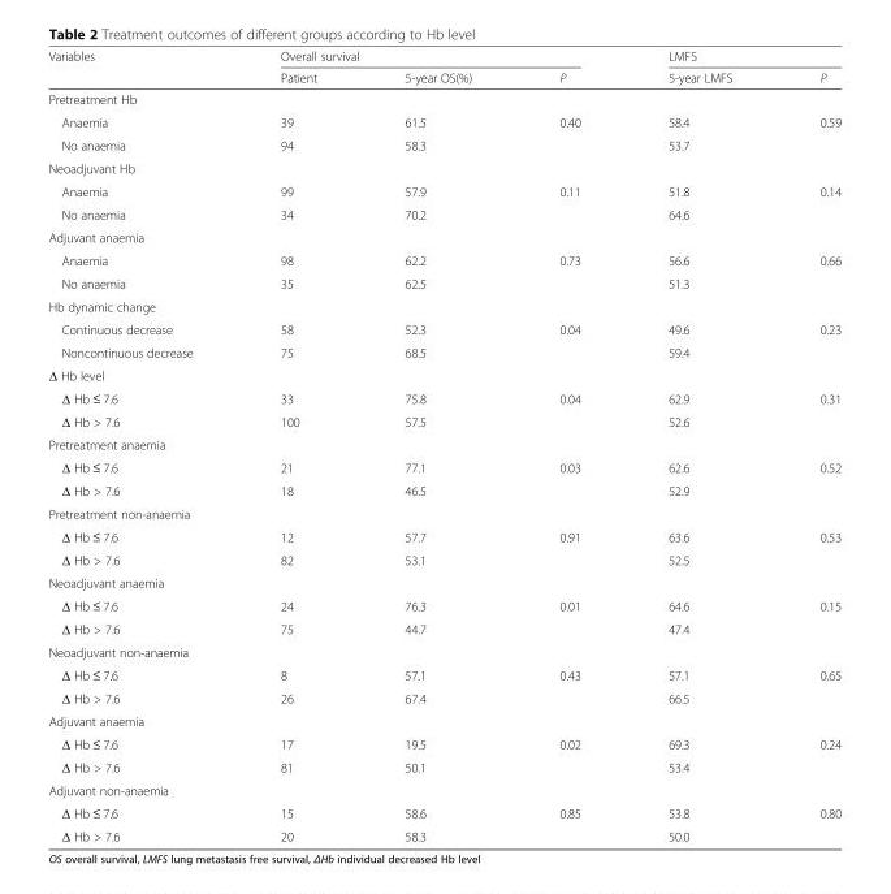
<table><thead><tr><td rowspan="2">Variables</td><td colspan="3">Overall survival</td><td colspan="2">LMFS</td></tr><tr><td>Patient</td><td>5-year OS(%)</td><td>P</td><td>5-year LMFS</td><td>P</td></tr></thead><tbody><tr><td colspan="6">Pretreatment Hb</td></tr><tr><td>Anaemia</td><td>39</td><td>61.5</td><td>0.40</td><td>58.4</td><td>0.59</td></tr><tr><td>No anaemia</td><td>94</td><td>58.3</td><td></td><td>53.7</td><td></td></tr><tr><td colspan="6">Neoadjuvant Hb</td></tr><tr><td>Anaemia</td><td>99</td><td>57.9</td><td>0.11</td><td>51.8</td><td>0.14</td></tr><tr><td>No anaemia</td><td>34</td><td>70.2</td><td></td><td>64.6</td><td></td></tr><tr><td colspan="6">Adjuvant anaemia</td></tr><tr><td>Anaemia</td><td>98</td><td>62.2</td><td>0.73</td><td>56.6</td><td>0.66</td></tr><tr><td>No anaemia</td><td>35</td><td>62.5</td><td></td><td>51.3</td><td></td></tr><tr><td colspan="6">Hb dynamic change</td></tr><tr><td>Continuous decrease</td><td>58</td><td>52.3</td><td>0.04</td><td>49.6</td><td>0.23</td></tr><tr><td>Noncontinuous decrease</td><td>75</td><td>68.5</td><td></td><td>59.4</td><td></td></tr><tr><td colspan="6">Δ Hb level</td></tr><tr><td>Δ Hb ≤ 7.6</td><td>33</td><td>75.8</td><td>0.04</td><td>62.9</td><td>0.31</td></tr><tr><td>Δ Hb &gt; 7.6</td><td>100</td><td>57.5</td><td></td><td>52.6</td><td></td></tr><tr><td colspan="6">Pretreatment anaemia</td></tr><tr><td>Δ Hb ≤ 7.6</td><td>21</td><td>77.1</td><td>0.03</td><td>62.6</td><td>0.52</td></tr><tr><td>Δ Hb &gt; 7.6</td><td>18</td><td>46.5</td><td></td><td>52.9</td><td></td></tr><tr><td colspan="6">Pretreatment non-anaemia</td></tr><tr><td>Δ Hb ≤ 7.6</td><td>12</td><td>57.7</td><td>0.91</td><td>63.6</td><td>0.53</td></tr><tr><td>Δ Hb &gt; 7.6</td><td>82</td><td>53.1</td><td></td><td>52.5</td><td></td></tr><tr><td colspan="6">Neoadjuvant anaemia</td></tr><tr><td>Δ Hb ≤ 7.6</td><td>24</td><td>76.3</td><td>0.01</td><td>64.6</td><td>0.15</td></tr><tr><td>Δ Hb &gt; 7.6</td><td>75</td><td>44.7</td><td></td><td>47.4</td><td></td></tr><tr><td colspan="6">Neoadjuvant non-anaemia</td></tr><tr><td>Δ Hb ≤ 7.6</td><td>8</td><td>57.1</td><td>0.43</td><td>57.1</td><td>0.65</td></tr><tr><td>Δ Hb &gt; 7.6</td><td>26</td><td>67.4</td><td></td><td>66.5</td><td></td></tr><tr><td colspan="6">Adjuvant anaemia</td></tr><tr><td>Δ Hb ≤ 7.6</td><td>17</td><td>19.5</td><td>0.02</td><td>69.3</td><td>0.24</td></tr><tr><td>Δ Hb &gt; 7.6</td><td>81</td><td>50.1</td><td></td><td>53.4</td><td></td></tr><tr><td colspan="6">Adjuvant non-anaemia</td></tr><tr><td>Δ Hb ≤ 7.6</td><td>15</td><td>58.6</td><td>0.85</td><td>53.8</td><td>0.80</td></tr><tr><td>Δ Hb &gt; 7.6</td><td>20</td><td>58.3</td><td></td><td>50.0</td><td></td></tr></tbody></table>